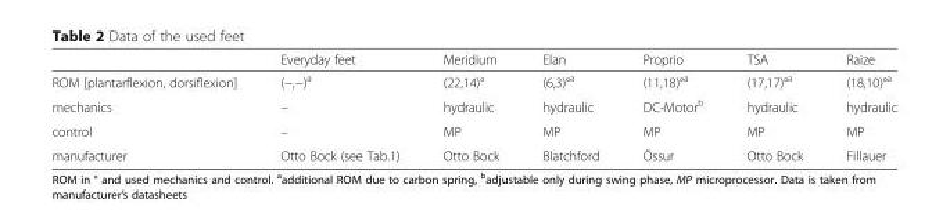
<table><thead><tr><td></td><td>Everyday feet</td><td>Meridium</td><td>Elan</td><td>Proprio</td><td>TSA</td><td>Raize</td></tr></thead><tbody><tr><td>ROM [plantarflexion, dorsiflexion]</td><td>(−,−)<sup>a</sup></td><td>(22,14)°</td><td>(6,3)°<sup>a</sup></td><td>(11,18)°<sup>a</sup></td><td>(17,17)°<sup>a</sup></td><td>(18,10)°<sup>a</sup></td></tr><tr><td>mechanics</td><td>–</td><td>hydraulic</td><td>hydraulic</td><td>DC-Motor<sup>b</sup></td><td>hydraulic</td><td>hydraulic</td></tr><tr><td>control</td><td>–</td><td>MP</td><td>MP</td><td>MP</td><td>MP</td><td>MP</td></tr><tr><td>manufacturer</td><td>Otto Bock (see Tab.1)</td><td>Otto Bock</td><td>Blatchford</td><td>Össur</td><td>Otto Bock</td><td>Fillauer</td></tr></tbody></table>